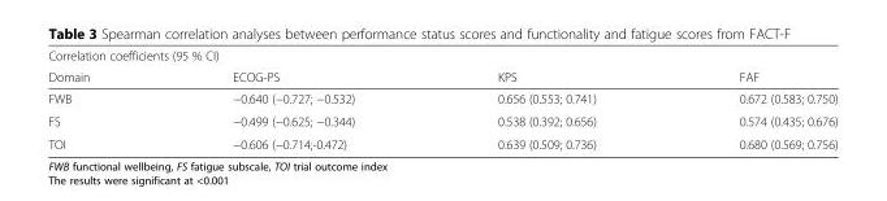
<table><thead><tr><td colspan="4">Correlation coefficients (95 % CI)</td></tr><tr><td>Domain</td><td>ECOG-PS</td><td>KPS</td><td>FAF</td></tr></thead><tbody><tr><td>FWB</td><td>−0.640 (−0.727; −0.532)</td><td>0.656 (0.553; 0.741)</td><td>0.672 (0.583; 0.750)</td></tr><tr><td>FS</td><td>−0.499 (−0.625; −0.344)</td><td>0.538 (0.392; 0.656)</td><td>0.574 (0.435; 0.676)</td></tr><tr><td>TOI</td><td>−0.606 (−0.714;-0.472)</td><td>0.639 (0.509; 0.736)</td><td>0.680 (0.569; 0.756)</td></tr></tbody></table>